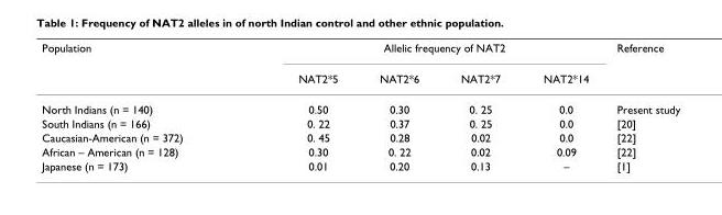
<table><thead><tr><td rowspan="2">Population</td><td colspan="4">Allelic frequency of NAT2</td><td rowspan="2">Reference</td></tr><tr><td>NAT2*5</td><td>NAT2*6</td><td>NAT2*7</td><td>NAT2*14</td></tr></thead><tbody><tr><td>North Indians (n = 140)</td><td>0.50</td><td>0.30</td><td>0. 25</td><td>0.0</td><td>Present study</td></tr><tr><td>South Indians (n = 166)</td><td>0. 22</td><td>0.37</td><td>0. 25</td><td>0.0</td><td>[20]</td></tr><tr><td>Caucasian-American (n = 372)</td><td>0. 45</td><td>0.28</td><td>0.02</td><td>0.0</td><td>[22]</td></tr><tr><td>African – American (n = 128)</td><td>0.30</td><td>0. 22</td><td>0.02</td><td>0.09</td><td>[22]</td></tr><tr><td>Japanese (n = 173)</td><td>0.01</td><td>0.20</td><td>0.13</td><td>–</td><td>[1]</td></tr></tbody></table>